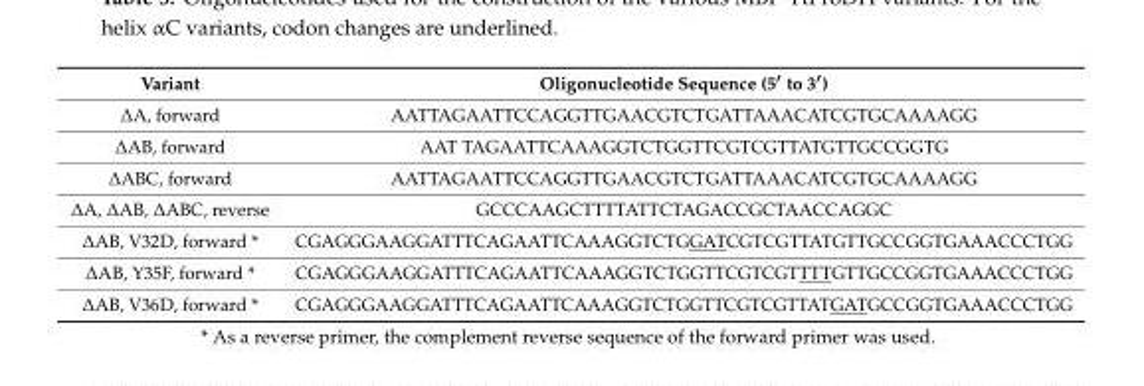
<table><thead><tr><td>Variant</td><td>Oligonucleotide Sequence (5′ to 3′)</td></tr></thead><tbody><tr><td>∆A, forward</td><td>AATTAGAATTCCAGGTTGAACGTCTGATTAAACATCGTGCAAAAGG</td></tr><tr><td>∆AB, forward</td><td>AAT TAGAATTCAAAGGTCTGGTTCGTCGTTATGTTGCCGGTG</td></tr><tr><td>∆ABC, forward</td><td>AATTAGAATTCCAGGTTGAACGTCTGATTAAACATCGTGCAAAAGG</td></tr><tr><td>∆A, ∆AB, ∆ABC, reverse</td><td>GCCCAAGCTTTTATTCTAGACCGCTAACCAGGC</td></tr><tr><td>∆AB, V32D, forward *</td><td>CGAGGGAAGGATTTCAGAATTCAAAGGTCTGGATCGTCGTTATGTTGCCGGTGAAACCCTGG</td></tr><tr><td>∆AB, Y35F, forward *</td><td>CGAGGGAAGGATTTCAGAATTCAAAGGTCTGGTTCGTCGTTTTGTTGCCGGTGAAACCCTGG</td></tr><tr><td>∆AB, V36D, forward *</td><td>CGAGGGAAGGATTTCAGAATTCAAAGGTCTGGTTCGTCGTTATGATGCCGGTGAAACCCTGG</td></tr></tbody></table>